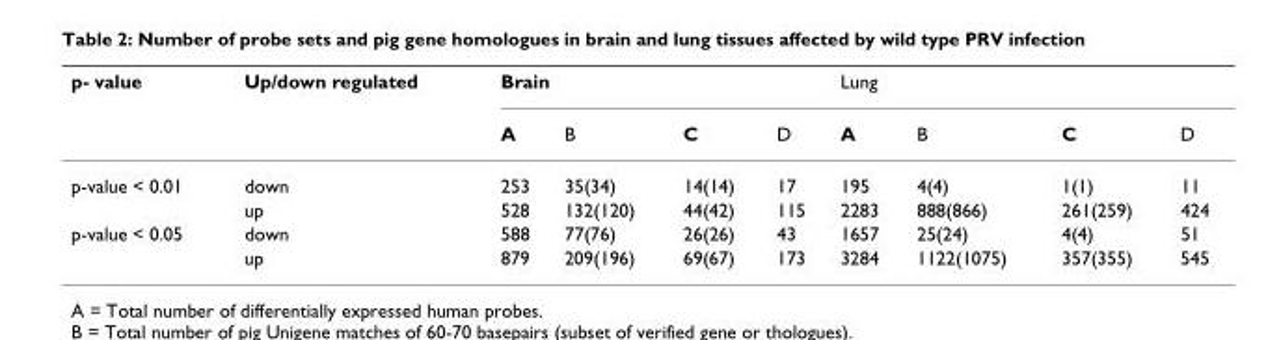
<table><thead><tr><td rowspan="2">p- value</td><td rowspan="2">Up/down regulated</td><td colspan="4">Brain</td><td colspan="4">Lung</td></tr><tr><td>A</td><td>B</td><td>C</td><td>D</td><td>A</td><td>B</td><td>C</td><td>D</td></tr></thead><tbody><tr><td rowspan="2">p-value &lt; 0.01</td><td>down</td><td>253</td><td>35(34)</td><td>14(14)</td><td>17</td><td>195</td><td>4(4)</td><td>1(1)</td><td>11</td></tr><tr><td>up</td><td>528</td><td>132(120)</td><td>44(42)</td><td>115</td><td>2283</td><td>888(866)</td><td>261(259)</td><td>424</td></tr><tr><td rowspan="2">p-value &lt; 0.05</td><td>down</td><td>588</td><td>77(76)</td><td>26(26)</td><td>43</td><td>1657</td><td>25(24)</td><td>4(4)</td><td>51</td></tr><tr><td>up</td><td>879</td><td>209(196)</td><td>69(67)</td><td>173</td><td>3284</td><td>1122(1075)</td><td>357(355)</td><td>545</td></tr></tbody></table>